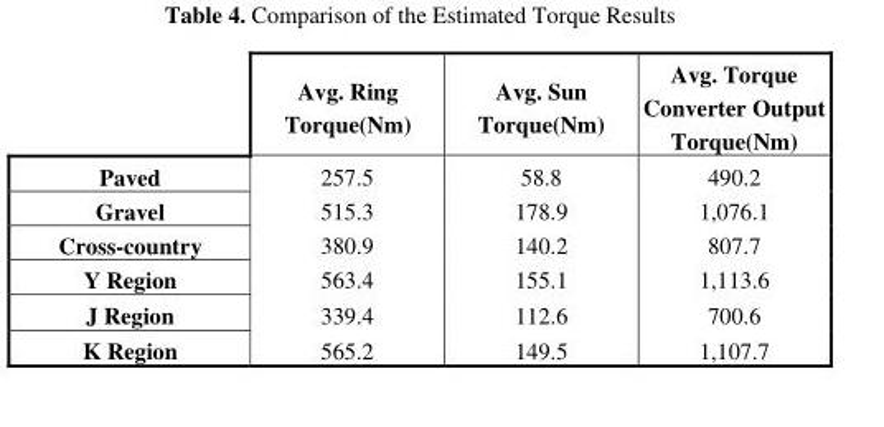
<table><thead><tr><td></td><td>Avg. Ring Torque(Nm)</td><td>Avg. Sun Torque(Nm)</td><td>Avg. Torque Converter Output Torque(Nm)</td></tr></thead><tbody><tr><td>Paved</td><td>257.5</td><td>58.8</td><td>490.2</td></tr><tr><td>Gravel</td><td>515.3</td><td>178.9</td><td>1,076.1</td></tr><tr><td>Cross-country</td><td>380.9</td><td>140.2</td><td>807.7</td></tr><tr><td>Y Region</td><td>563.4</td><td>155.1</td><td>1,113.6</td></tr><tr><td>J Region</td><td>339.4</td><td>112.6</td><td>700.6</td></tr><tr><td>K Region</td><td>565.2</td><td>149.5</td><td>1,107.7</td></tr></tbody></table>